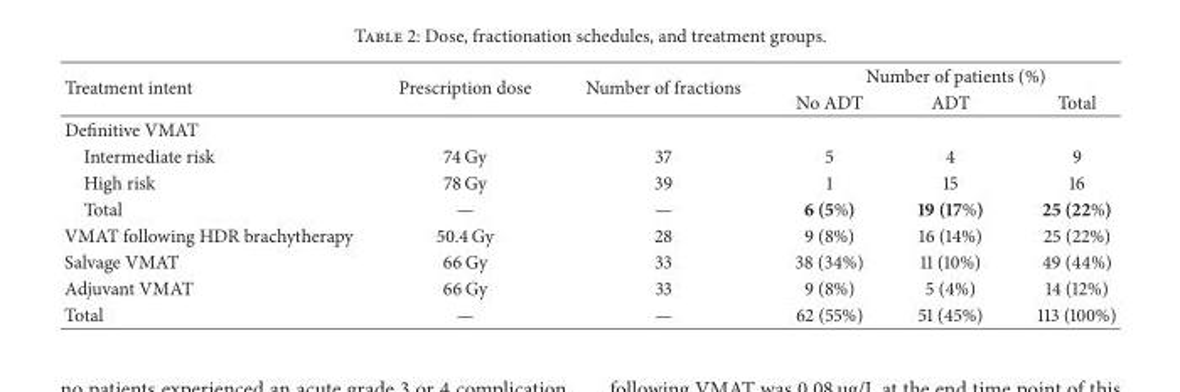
<table><thead><tr><td rowspan="2">Treatment intent</td><td rowspan="2">Prescription dose</td><td rowspan="2">Number of fractions</td><td colspan="3">Number of patients (%)</td></tr><tr><td>No ADT</td><td>ADT</td><td>Total</td></tr></thead><tbody><tr><td colspan="6">Definitive VMAT</td></tr><tr><td>Intermediate risk</td><td>74 Gy</td><td>37</td><td>5</td><td>4</td><td>9</td></tr><tr><td>High risk</td><td>78 Gy</td><td>39</td><td>1</td><td>15</td><td>16</td></tr><tr><td>Total</td><td>—</td><td>—</td><td>6 (5%)</td><td>19 (17%)</td><td>25 (22%)</td></tr><tr><td>VMAT following HDR brachytherapy</td><td>50.4 Gy</td><td>28</td><td>9 (8%)</td><td>16 (14%)</td><td>25 (22%)</td></tr><tr><td>Salvage VMAT</td><td>66 Gy</td><td>33</td><td>38 (34%)</td><td>11 (10%)</td><td>49 (44%)</td></tr><tr><td>Adjuvant VMAT</td><td>66 Gy</td><td>33</td><td>9 (8%)</td><td>5 (4%)</td><td>14 (12%)</td></tr><tr><td>Total</td><td>—</td><td>—</td><td>62 (55%)</td><td>51 (45%)</td><td>113 (100%)</td></tr></tbody></table>